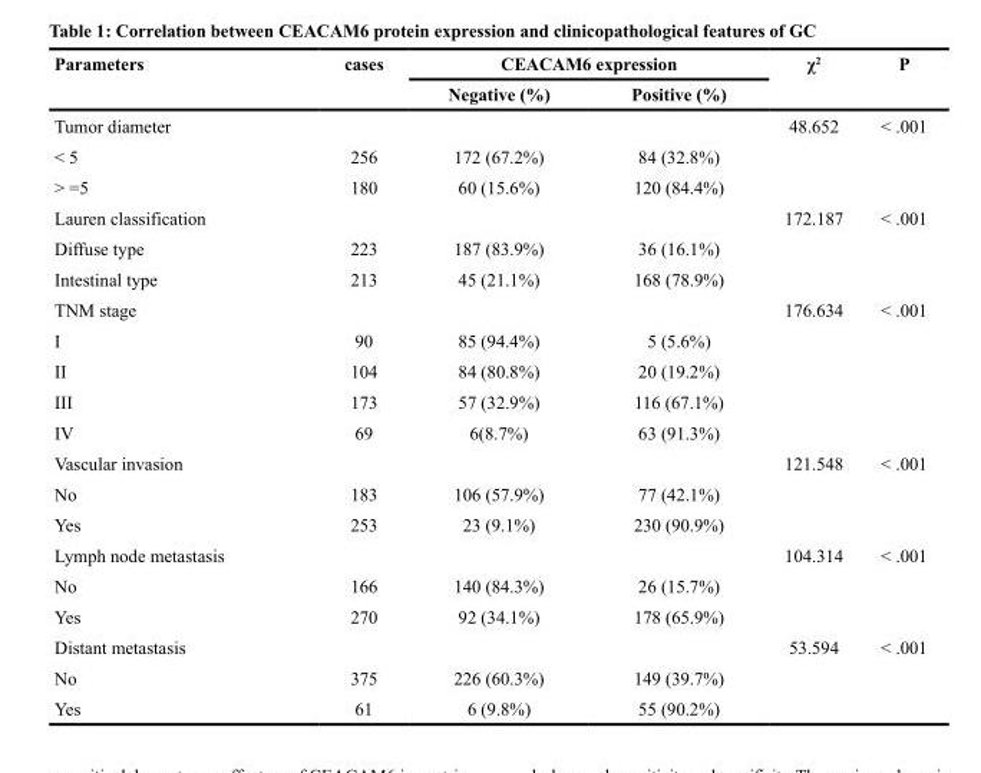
<table><thead><tr><td rowspan="2">Parameters</td><td rowspan="2">cases</td><td colspan="2">CEACAM6 expression</td><td rowspan="2">χ<sup>2</sup></td><td rowspan="2">P</td></tr><tr><td>Negative (%)</td><td>Positive (%)</td></tr></thead><tbody><tr><td>Tumor diameter</td><td></td><td></td><td></td><td>48.652</td><td>&lt; .001</td></tr><tr><td>&lt; 5</td><td>256</td><td>172 (67.2%)</td><td>84 (32.8%)</td><td></td><td></td></tr><tr><td>&gt; =5</td><td>180</td><td>60 (15.6%)</td><td>120 (84.4%)</td><td></td><td></td></tr><tr><td>Lauren classification</td><td></td><td></td><td></td><td>172.187</td><td>&lt; .001</td></tr><tr><td>Diffuse type</td><td>223</td><td>187 (83.9%)</td><td>36 (16.1%)</td><td></td><td></td></tr><tr><td>Intestinal type</td><td>213</td><td>45 (21.1%)</td><td>168 (78.9%)</td><td></td><td></td></tr><tr><td>TNM stage</td><td></td><td></td><td></td><td>176.634</td><td>&lt; .001</td></tr><tr><td>I</td><td>90</td><td>85 (94.4%)</td><td>5 (5.6%)</td><td></td><td></td></tr><tr><td>II</td><td>104</td><td>84 (80.8%)</td><td>20 (19.2%)</td><td></td><td></td></tr><tr><td>III</td><td>173</td><td>57 (32.9%)</td><td>116 (67.1%)</td><td></td><td></td></tr><tr><td>IV</td><td>69</td><td>6(8.7%)</td><td>63 (91.3%)</td><td></td><td></td></tr><tr><td>Vascular invasion</td><td></td><td></td><td></td><td>121.548</td><td>&lt; .001</td></tr><tr><td>No</td><td>183</td><td>106 (57.9%)</td><td>77 (42.1%)</td><td></td><td></td></tr><tr><td>Yes</td><td>253</td><td>23 (9.1%)</td><td>230 (90.9%)</td><td></td><td></td></tr><tr><td>Lymph node metastasis</td><td></td><td></td><td></td><td>104.314</td><td>&lt; .001</td></tr><tr><td>No</td><td>166</td><td>140 (84.3%)</td><td>26 (15.7%)</td><td></td><td></td></tr><tr><td>Yes</td><td>270</td><td>92 (34.1%)</td><td>178 (65.9%)</td><td></td><td></td></tr><tr><td>Distant metastasis</td><td></td><td></td><td></td><td>53.594</td><td>&lt; .001</td></tr><tr><td>No</td><td>375</td><td>226 (60.3%)</td><td>149 (39.7%)</td><td></td><td></td></tr><tr><td>Yes</td><td>61</td><td>6 (9.8%)</td><td>55 (90.2%)</td><td></td><td></td></tr></tbody></table>